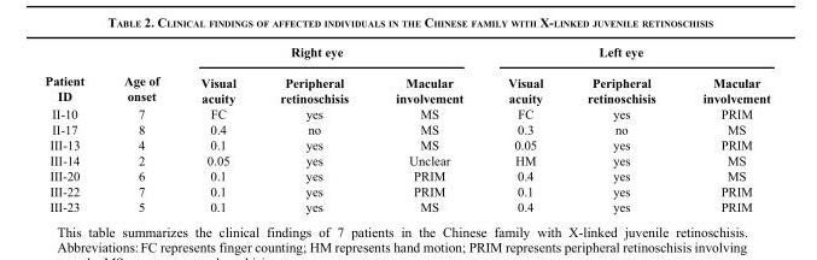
<table><thead><tr><td rowspan="2">Patient ID</td><td rowspan="2">Age of onset</td><td colspan="3">Right eye</td><td colspan="3">Left eye</td></tr><tr><td>Visual acuity</td><td>Peripheral retinoschisis</td><td>Macular involvement</td><td>Visual acuity</td><td>Peripheral retinoschisis</td><td>Macular involvement</td></tr></thead><tbody><tr><td>II-10</td><td>7</td><td>FC</td><td>yes</td><td>MS</td><td>FC</td><td>yes</td><td>PRIM</td></tr><tr><td>II-17</td><td>8</td><td>0.4</td><td>no</td><td>MS</td><td>0.3</td><td>no</td><td>MS</td></tr><tr><td>III-13</td><td>4</td><td>0.1</td><td>yes</td><td>MS</td><td>0.05</td><td>yes</td><td>PRIM</td></tr><tr><td>III-14</td><td>2</td><td>0.05</td><td>yes</td><td>Unclear</td><td>HM</td><td>yes</td><td>MS</td></tr><tr><td>III-20</td><td>6</td><td>0.1</td><td>yes</td><td>PRIM</td><td>0.4</td><td>yes</td><td>MS</td></tr><tr><td>III-22</td><td>7</td><td>0.1</td><td>yes</td><td>PRIM</td><td>0.1</td><td>yes</td><td>PRIM</td></tr><tr><td>III-23</td><td>5</td><td>0.1</td><td>yes</td><td>MS</td><td>0.4</td><td>yes</td><td>PRIM</td></tr></tbody></table>